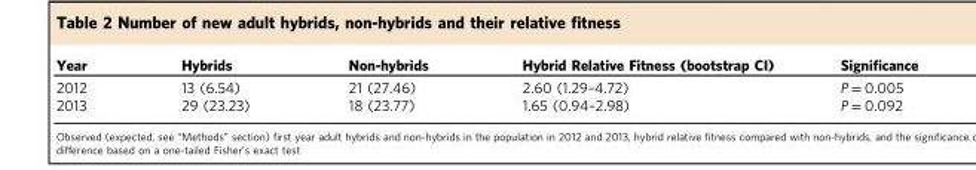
<table><thead><tr><td>Year</td><td>Hybrids</td><td>Non-hybrids</td><td>Hybrid Relative Fitness (bootstrap CI)</td><td>Significance</td></tr></thead><tbody><tr><td>2012</td><td>13 (6.54)</td><td>21 (27.46)</td><td>2.60 (1.29–4.72)</td><td>P = 0.005</td></tr><tr><td>2013</td><td>29 (23.23)</td><td>18 (23.77)</td><td>1.65 (0.94–2.98)</td><td>P = 0.092</td></tr></tbody></table>